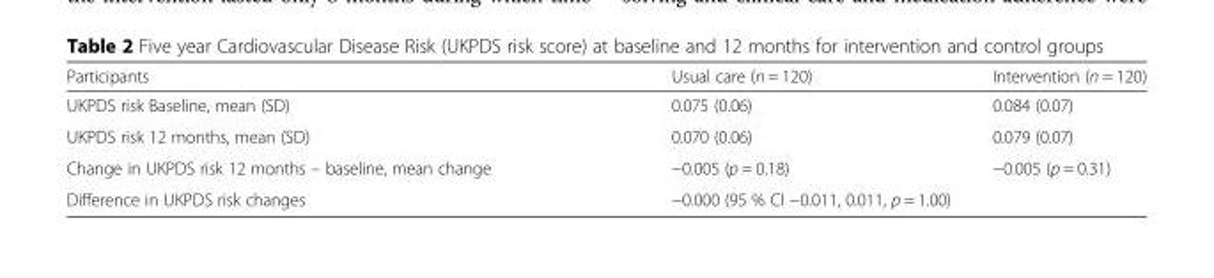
<table><thead><tr><td>Participants</td><td>Usual care (n = 120)</td><td>Intervention (n = 120)</td></tr></thead><tbody><tr><td>UKPDS risk Baseline, mean (SD)</td><td>0.075 (0.06)</td><td>0.084 (0.07)</td></tr><tr><td>UKPDS risk 12 months, mean (SD)</td><td>0.070 (0.06)</td><td>0.079 (0.07)</td></tr><tr><td>Change in UKPDS risk 12 months – baseline, mean change</td><td>−0.005 (p = 0.18)</td><td>−0.005 (p = 0.31)</td></tr><tr><td>Difference in UKPDS risk changes</td><td colspan="2">−0.000 (95 % CI −0.011, 0.011, p = 1.00)</td></tr></tbody></table>